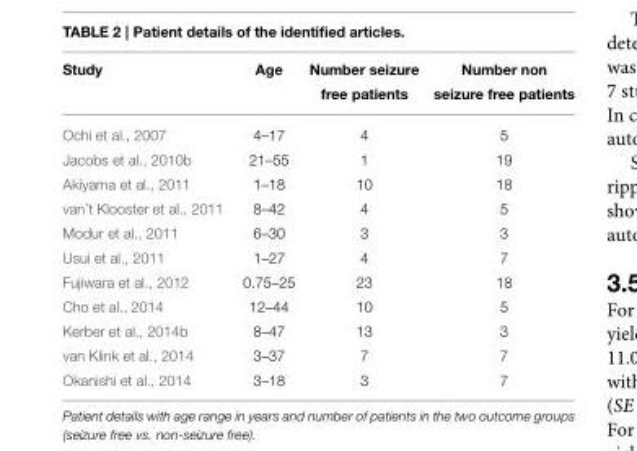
<table><thead><tr><td>Study</td><td>Age</td><td>Number seizure free patients</td><td>Number non seizure free patients</td></tr></thead><tbody><tr><td>Ochi et al., 2007</td><td>4–17</td><td>4</td><td>5</td></tr><tr><td>Jacobs et al., 2010b</td><td>21–55</td><td>1</td><td>19</td></tr><tr><td>Akiyama et al., 2011</td><td>1–18</td><td>10</td><td>18</td></tr><tr><td>van’t Klooster et al., 2011</td><td>8–42</td><td>4</td><td>5</td></tr><tr><td>Modur et al., 2011</td><td>6–30</td><td>3</td><td>3</td></tr><tr><td>Usui et al., 2011</td><td>1–27</td><td>4</td><td>7</td></tr><tr><td>Fujiwara et al., 2012</td><td>0.75–25</td><td>23</td><td>18</td></tr><tr><td>Cho et al., 2014</td><td>12–44</td><td>10</td><td>5</td></tr><tr><td>Kerber et al., 2014b</td><td>8–47</td><td>13</td><td>3</td></tr><tr><td>van Klink et al., 2014</td><td>3–37</td><td>7</td><td>7</td></tr><tr><td>Okanishi et al., 2014</td><td>3–18</td><td>3</td><td>7</td></tr></tbody></table>